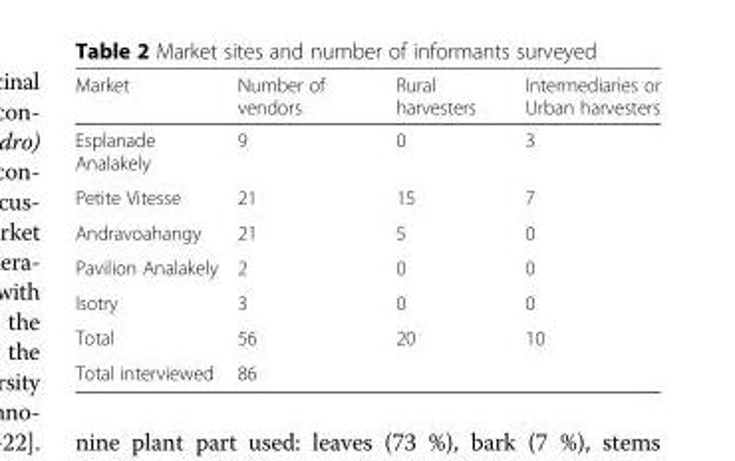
<table><thead><tr><td>Market</td><td>Number of vendors</td><td>Rural harvesters</td><td>Intermediaries or Urban harvesters</td></tr></thead><tbody><tr><td>Esplanade Analakely</td><td>9</td><td>0</td><td>3</td></tr><tr><td>Petite Vitesse</td><td>21</td><td>15</td><td>7</td></tr><tr><td>Andravoahangy</td><td>21</td><td>5</td><td>0</td></tr><tr><td>Pavilion Analakely</td><td>2</td><td>0</td><td>0</td></tr><tr><td>Isotry</td><td>3</td><td>0</td><td>0</td></tr><tr><td>Total</td><td>56</td><td>20</td><td>10</td></tr><tr><td>Total interviewed</td><td colspan="3">86</td></tr></tbody></table>